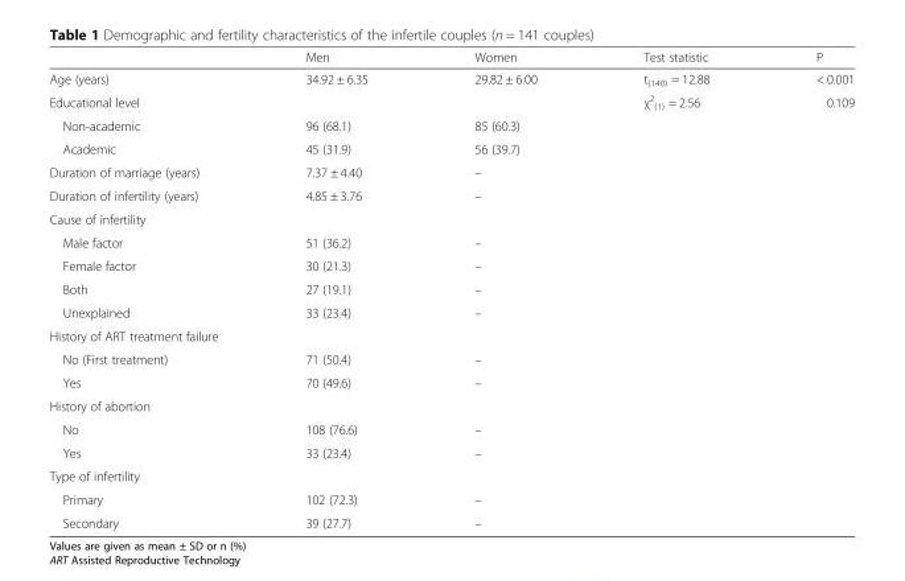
<table><thead><tr><td></td><td>Men</td><td>Women</td><td>Test statistic</td><td>P</td></tr></thead><tbody><tr><td>Age (years)</td><td>34.92 ± 6.35</td><td>29.82 ± 6.00</td><td>t<sub>(140)</sub> = 12.88</td><td>&lt; 0.001</td></tr><tr><td>Educational level</td><td></td><td></td><td>χ<sup>2</sup> <sub>(1)</sub> = 2.56</td><td>0.109</td></tr><tr><td>Non-academic</td><td>96 (68.1)</td><td>85 (60.3)</td><td></td><td></td></tr><tr><td>Academic</td><td>45 (31.9)</td><td>56 (39.7)</td><td></td><td></td></tr><tr><td>Duration of marriage (years)</td><td>7.37 ± 4.40</td><td>–</td><td></td><td></td></tr><tr><td>Duration of infertility (years)</td><td>4.85 ± 3.76</td><td>–</td><td></td><td></td></tr><tr><td colspan="5">Cause of infertility</td></tr><tr><td>Male factor</td><td>51 (36.2)</td><td>–</td><td></td><td></td></tr><tr><td>Female factor</td><td>30 (21.3)</td><td>–</td><td></td><td></td></tr><tr><td>Both</td><td>27 (19.1)</td><td>–</td><td></td><td></td></tr><tr><td>Unexplained</td><td>33 (23.4)</td><td>–</td><td></td><td></td></tr><tr><td colspan="5">History of ART treatment failure</td></tr><tr><td>No (First treatment)</td><td>71 (50.4)</td><td>–</td><td></td><td></td></tr><tr><td>Yes</td><td>70 (49.6)</td><td>–</td><td></td><td></td></tr><tr><td colspan="5">History of abortion</td></tr><tr><td>No</td><td>108 (76.6)</td><td>–</td><td></td><td></td></tr><tr><td>Yes</td><td>33 (23.4)</td><td>–</td><td></td><td></td></tr><tr><td colspan="5">Type of infertility</td></tr><tr><td>Primary</td><td>102 (72.3)</td><td>–</td><td></td><td></td></tr><tr><td>Secondary</td><td>39 (27.7)</td><td>–</td><td></td><td></td></tr></tbody></table>